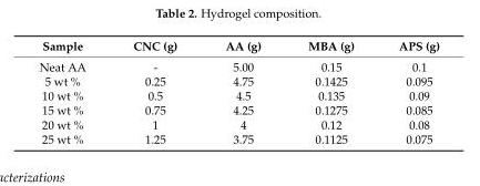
<table><thead><tr><td>Sample</td><td>CNC (g)</td><td>AA (g)</td><td>MBA (g)</td><td>APS (g)</td></tr></thead><tbody><tr><td>Neat AA</td><td>-</td><td>5.00</td><td>0.15</td><td>0.1</td></tr><tr><td>5 wt %</td><td>0.25</td><td>4.75</td><td>0.1425</td><td>0.095</td></tr><tr><td>10 wt %</td><td>0.5</td><td>4.5</td><td>0.135</td><td>0.09</td></tr><tr><td>15 wt %</td><td>0.75</td><td>4.25</td><td>0.1275</td><td>0.085</td></tr><tr><td>20 wt %</td><td>1</td><td>4</td><td>0.12</td><td>0.08</td></tr><tr><td>25 wt %</td><td>1.25</td><td>3.75</td><td>0.1125</td><td>0.075</td></tr></tbody></table>